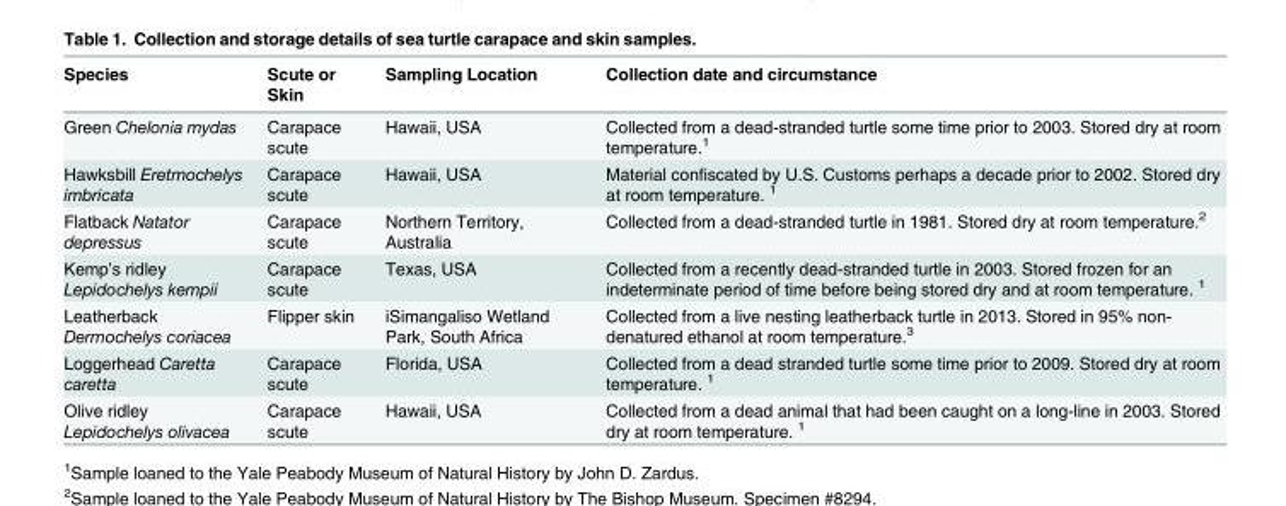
<table><thead><tr><td>Species</td><td>Scute or Skin</td><td>Sampling Location</td><td>Collection date and circumstance</td></tr></thead><tbody><tr><td>Green Chelonia mydas</td><td>Carapace scute</td><td>Hawaii, USA</td><td>Collected from a dead-stranded turtle some time prior to 2003. Stored dry at room temperature.<sup>1</sup></td></tr><tr><td>Hawksbill Eretmochelys imbricata</td><td>Carapace scute</td><td>Hawaii, USA</td><td>Material confiscated by U.S. Customs perhaps a decade prior to 2002. Stored dry at room temperature. <sup>1</sup></td></tr><tr><td>Flatback Natator depressus</td><td>Carapace scute</td><td>Northern Territory, Australia</td><td>Collected from a dead-stranded turtle in 1981. Stored dry at room temperature.<sup>2</sup></td></tr><tr><td>Kemp’s ridley Lepidochelys kempii</td><td>Carapace scute</td><td>Texas, USA</td><td>Collected from a recently dead-stranded turtle in 2003. Stored frozen for an indeterminate period of time before being stored dry and at room temperature. <sup>1</sup></td></tr><tr><td>Leatherback Dermochelys coriacea</td><td>Flipper skin</td><td>iSimangaliso Wetland Park, South Africa</td><td>Collected from a live nesting leatherback turtle in 2013. Stored in 95% non- denatured ethanol at room temperature.<sup>3</sup></td></tr><tr><td>Loggerhead Caretta caretta</td><td>Carapace scute</td><td>Florida, USA</td><td>Collected from a dead stranded turtle some time prior to 2009. Stored dry at room temperature. <sup>1</sup></td></tr><tr><td>Olive ridley Lepidochelys olivacea</td><td>Carapace scute</td><td>Hawaii, USA</td><td>Collected from a dead animal that had been caught on a long-line in 2003. Stored dry at room temperature. <sup>1</sup></td></tr></tbody></table>